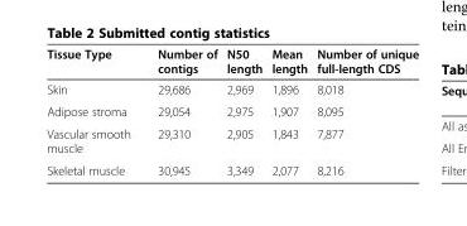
<table><thead><tr><td>Tissue Type</td><td>Number of contigs</td><td>N50 length</td><td>Mean length</td><td>Number of unique full-length CDS</td></tr></thead><tbody><tr><td>Skin</td><td>29,686</td><td>2,969</td><td>1,896</td><td>8,018</td></tr><tr><td>Adipose stroma</td><td>29,054</td><td>2,975</td><td>1,907</td><td>8,095</td></tr><tr><td>Vascular smooth muscle</td><td>29,310</td><td>2,905</td><td>1,843</td><td>7,877</td></tr><tr><td>Skeletal muscle</td><td>30,945</td><td>3,349</td><td>2,077</td><td>8,216</td></tr></tbody></table>